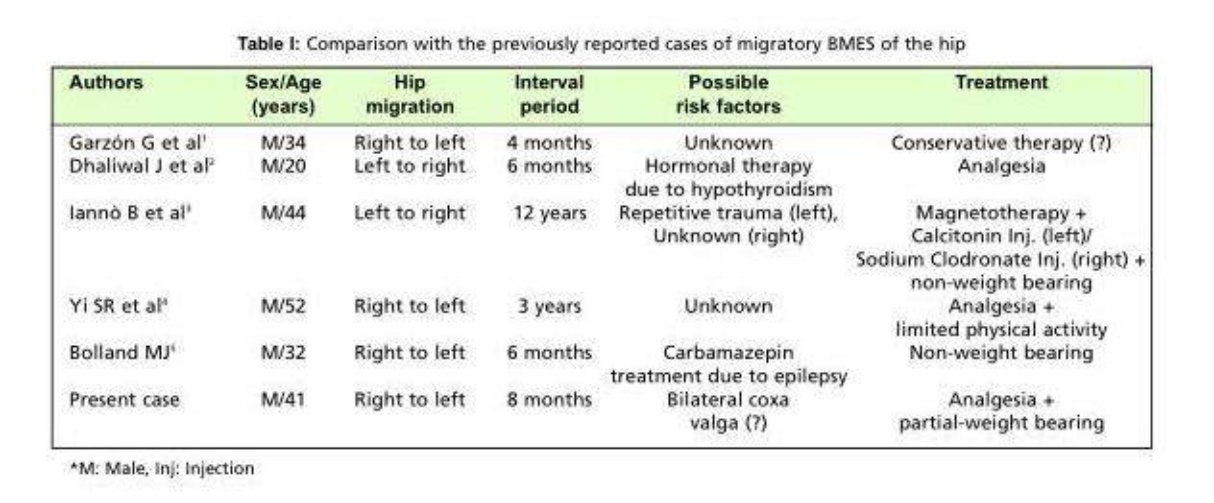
<table><thead><tr><td>Authors</td><td>Sex/Age (years)</td><td>Hip migration</td><td>Interval period</td><td>Possible risk factors</td><td>Treatment</td></tr></thead><tbody><tr><td>Garzón G et al<sup>1</sup></td><td>M/34</td><td>Right to left</td><td>4 months</td><td>Unknown</td><td>Conservative therapy (?)</td></tr><tr><td>Dhaliwal J et al<sup>2</sup></td><td>M/20</td><td>Left to right</td><td>6 months</td><td>Hormonal therapy due to hypothyroidism</td><td>Analgesia</td></tr><tr><td>Iannò B et al<sup>3</sup></td><td>M/44</td><td>Left to right</td><td>12 years</td><td>Repetitive trauma (left), Unknown (right)</td><td>Magnetotherapy + Calcitonin Inj. (left)/ Sodium Clodronate Inj. (right) + non-weight bearing</td></tr><tr><td>Yi SR et al<sup>4</sup></td><td>M/52</td><td>Right to left</td><td>3 years</td><td>Unknown</td><td>Analgesia + limited physical activity</td></tr><tr><td>Bolland MJ<sup>5</sup></td><td>M/32</td><td>Right to left</td><td>6 months</td><td>Carbamazepin treatment due to epilepsy</td><td>Non-weight bearing</td></tr><tr><td>Present case</td><td>M/41</td><td>Right to left</td><td>8 months</td><td>Bilateral coxa valga (?)</td><td>Analgesia + partial-weight bearing</td></tr></tbody></table>